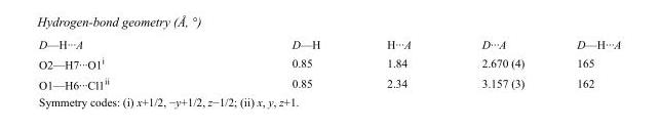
<table><tbody><tr><td>D—H···A</td><td>D—H</td><td>H···A</td><td>D···A</td><td>D—H···A</td></tr><tr><td>O2—H7···O1<sup>i</sup></td><td>0.85</td><td>1.84</td><td>2.670 (4)</td><td>165</td></tr><tr><td>O1—H6···Cl1<sup>ii</sup></td><td>0.85</td><td>2.34</td><td>3.157 (3)</td><td>162</td></tr></tbody></table>